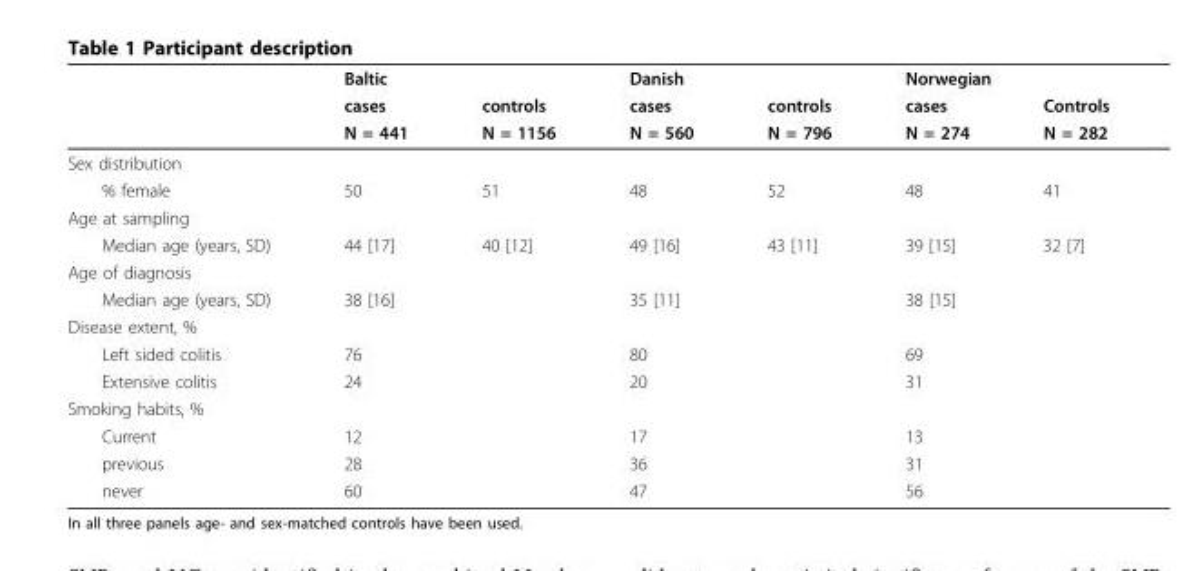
<table><thead><tr><td rowspan="3"></td><td colspan="2">Baltic</td><td colspan="2">Danish</td><td colspan="2">Norwegian</td></tr><tr><td rowspan="2">cases N = 441</td><td rowspan="2">controls N = 1156</td><td rowspan="2">cases N = 560</td><td rowspan="2">controls N = 796</td><td rowspan="2">cases N = 274</td><td rowspan="2">Controls N = 282</td></tr><tr></tr></thead><tbody><tr><td colspan="7">Sex distribution</td></tr><tr><td>% female</td><td>50</td><td>51</td><td>48</td><td>52</td><td>48</td><td>41</td></tr><tr><td colspan="7">Age at sampling</td></tr><tr><td>Median age (years, SD)</td><td>44 [17]</td><td>40 [12]</td><td>49 [16]</td><td>43 [11]</td><td>39 [15]</td><td>32 [7]</td></tr><tr><td colspan="7">Age of diagnosis</td></tr><tr><td>Median age (years, SD)</td><td>38 [16]</td><td></td><td>35 [11]</td><td></td><td>38 [15]</td><td></td></tr><tr><td colspan="7">Disease extent, %</td></tr><tr><td>Left sided colitis</td><td>76</td><td></td><td>80</td><td></td><td>69</td><td></td></tr><tr><td>Extensive colitis</td><td>24</td><td></td><td>20</td><td></td><td>31</td><td></td></tr><tr><td colspan="7">Smoking habits, %</td></tr><tr><td>Current</td><td>12</td><td></td><td>17</td><td></td><td>13</td><td></td></tr><tr><td>previous</td><td>28</td><td></td><td>36</td><td></td><td>31</td><td></td></tr><tr><td>never</td><td>60</td><td></td><td>47</td><td></td><td>56</td><td></td></tr></tbody></table>